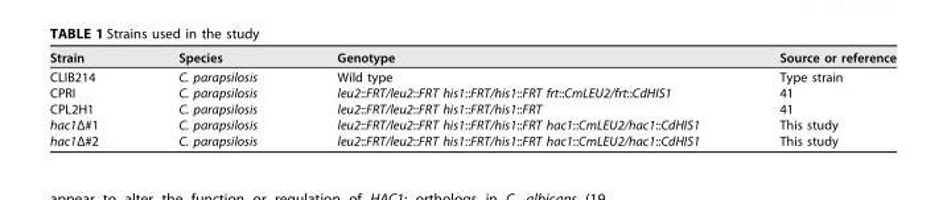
<table><thead><tr><td>Strain</td><td>Species</td><td>Genotype</td><td>Source or reference</td></tr></thead><tbody><tr><td>CLIB214</td><td>C. parapsilosis</td><td>Wild type</td><td>Type strain</td></tr><tr><td>CPRI</td><td>C. parapsilosis</td><td>leu2::FRT/leu2::FRT his1::FRT/his1::FRT frt::CmLEU2/frt::CdHIS1</td><td>41</td></tr><tr><td>CPL2H1</td><td>C. parapsilosis</td><td>leu2::FRT/leu2::FRT his1::FRT/his1::FRT</td><td>41</td></tr><tr><td>hac1Δ#1</td><td>C. parapsilosis</td><td>leu2::FRT/leu2::FRT his1::FRT/his1::FRT hac1::CmLEU2/hac1::CdHIS1</td><td>This study</td></tr><tr><td>hac1Δ#2</td><td>C. parapsilosis</td><td>leu2::FRT/leu2::FRT his1::FRT/his1::FRT hac1::CmLEU2/hac1::CdHIS1</td><td>This study</td></tr></tbody></table>